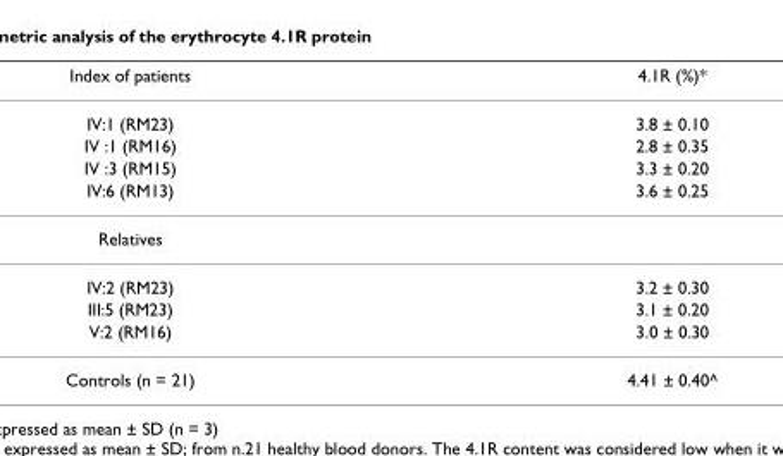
<table><thead><tr><td>Index of patients</td><td>4.1R (%)*</td></tr></thead><tbody><tr><td>IV:1 (RM23)</td><td>3.8 ± 0.10</td></tr><tr><td>IV :1 (RM16)</td><td>2.8 ± 0.35</td></tr><tr><td>IV :3 (RM15)</td><td>3.3 ± 0.20</td></tr><tr><td>IV:6 (RM13)</td><td>3.6 ± 0.25</td></tr><tr><td colspan="2">Relatives</td></tr><tr><td>IV:2 (RM23)</td><td>3.2 ± 0.30</td></tr><tr><td>III:5 (RM23)</td><td>3.1 ± 0.20</td></tr><tr><td>V:2 (RM16)</td><td>3.0 ± 0.30</td></tr><tr><td>Controls (n = 21)</td><td>4.41 ± 0.40^</td></tr></tbody></table>